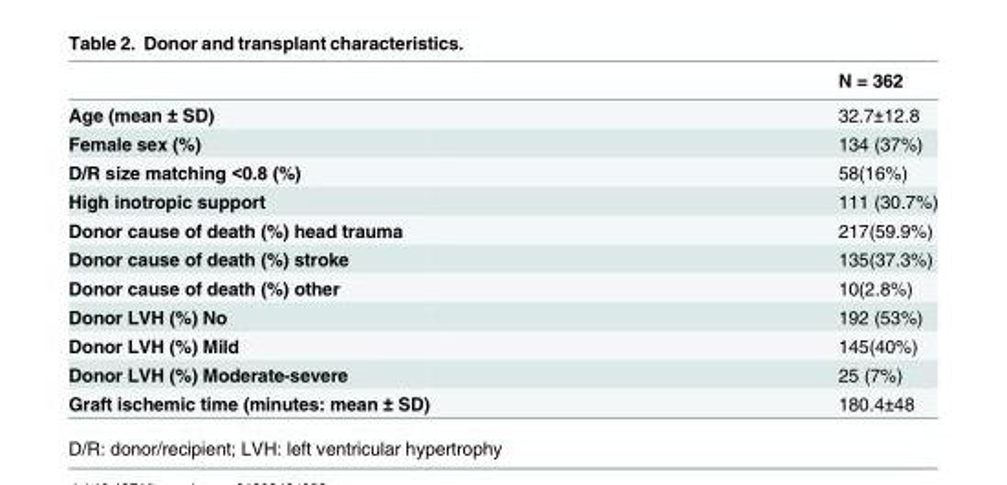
<table><thead><tr><td></td><td>N = 362</td></tr></thead><tbody><tr><td>Age (mean ± SD)</td><td>32.7±12.8</td></tr><tr><td>Female sex (%)</td><td>134 (37%)</td></tr><tr><td>D/R size matching &lt;0.8 (%)</td><td>58(16%)</td></tr><tr><td>High inotropic support</td><td>111 (30.7%)</td></tr><tr><td>Donor cause of death (%) head trauma</td><td>217(59.9%)</td></tr><tr><td>Donor cause of death (%) stroke</td><td>135(37.3%)</td></tr><tr><td>Donor cause of death (%) other</td><td>10(2.8%)</td></tr><tr><td>Donor LVH (%) No</td><td>192 (53%)</td></tr><tr><td>Donor LVH (%) Mild</td><td>145(40%)</td></tr><tr><td>Donor LVH (%) Moderate-severe</td><td>25 (7%)</td></tr><tr><td>Graft ischemic time (minutes: mean ± SD)</td><td>180.4±48</td></tr></tbody></table>